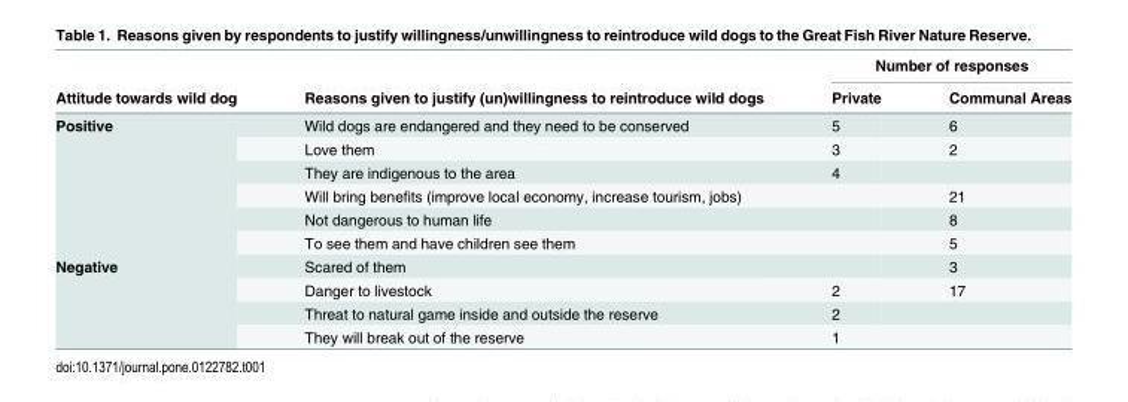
<table><thead><tr><td rowspan="2">Attitude towards wild dog</td><td rowspan="2">Reasons given to justify (un)willingness to reintroduce wild dogs</td><td colspan="2">Number of responses</td></tr><tr><td>Private</td><td>Communal Areas</td></tr></thead><tbody><tr><td rowspan="6">Positive</td><td>Wild dogs are endangered and they need to be conserved</td><td>5</td><td>6</td></tr><tr><td>Love them</td><td>3</td><td>2</td></tr><tr><td>They are indigenous to the area</td><td>4</td><td></td></tr><tr><td>Will bring benefits (improve local economy, increase tourism, jobs)</td><td></td><td>21</td></tr><tr><td>Not dangerous to human life</td><td></td><td>8</td></tr><tr><td>To see them and have children see them</td><td></td><td>5</td></tr><tr><td rowspan="4">Negative</td><td>Scared of them</td><td></td><td>3</td></tr><tr><td>Danger to livestock</td><td>2</td><td>17</td></tr><tr><td>Threat to natural game inside and outside the reserve</td><td>2</td><td></td></tr><tr><td>They will break out of the reserve</td><td>1</td><td></td></tr></tbody></table>